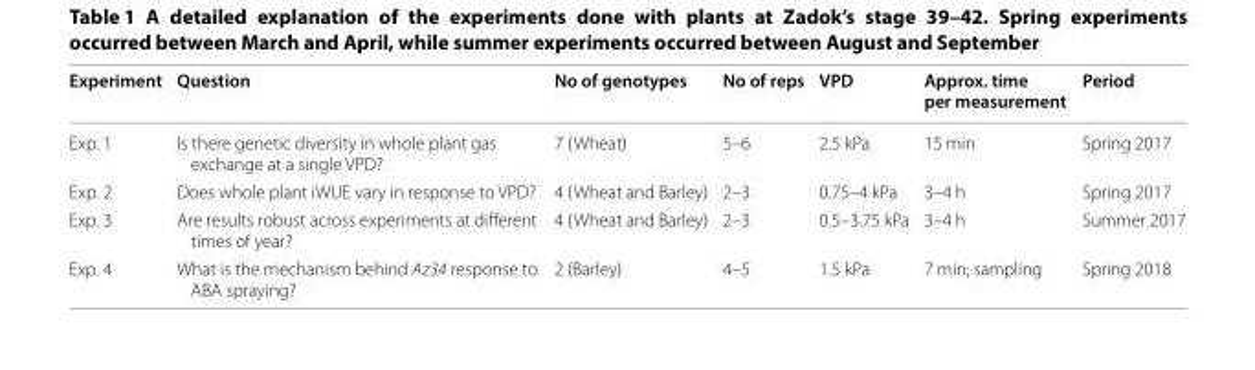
<table><thead><tr><td>Experiment</td><td>Question</td><td>No of genotypes</td><td>No of reps</td><td>VPD</td><td>Approx. time per measurement</td><td>Period</td></tr></thead><tbody><tr><td>Exp. 1</td><td>Is there genetic diversity in whole plant gas exchange at a single VPD?</td><td>7 (Wheat)</td><td>5–6</td><td>2.5 kPa</td><td>15 min</td><td>Spring 2017</td></tr><tr><td>Exp. 2</td><td>Does whole plant iWUE vary in response to VPD?</td><td>4 (Wheat and Barley)</td><td>2–3</td><td>0.75–4 kPa</td><td>3–4 h</td><td>Spring 2017</td></tr><tr><td>Exp. 3</td><td>Are results robust across experiments at different times of year?</td><td>4 (Wheat and Barley)</td><td>2–3</td><td>0.5–3.75 kPa</td><td>3–4 h</td><td>Summer 2017</td></tr><tr><td>Exp. 4</td><td>What is the mechanism behind Az34 response to ABA spraying?</td><td>2 (Barley)</td><td>4–5</td><td>1.5 kPa</td><td>7 min; sampling</td><td>Spring 2018</td></tr></tbody></table>